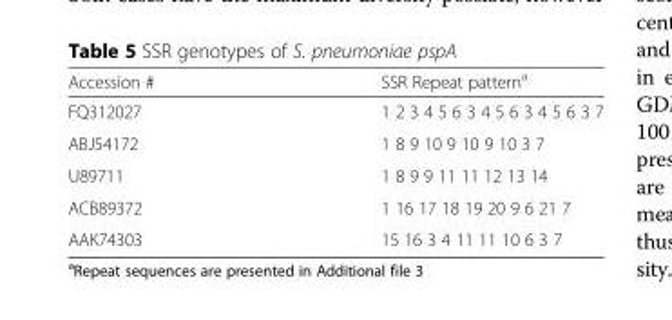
<table><thead><tr><td>Accession #</td><td>SSR Repeat pattern<sup>a</sup></td></tr></thead><tbody><tr><td>FQ312027</td><td>1 2 3 4 5 6 3 4 5 6 3 4 5 6 3 7</td></tr><tr><td>ABJ54172</td><td>1 8 9 10 9 10 9 10 3 7</td></tr><tr><td>U89711</td><td>1 8 9 9 11 11 12 13 14</td></tr><tr><td>ACB89372</td><td>1 16 17 18 19 20 9 6 21 7</td></tr><tr><td>AAK74303</td><td>15 16 3 4 11 11 10 6 3 7</td></tr></tbody></table>